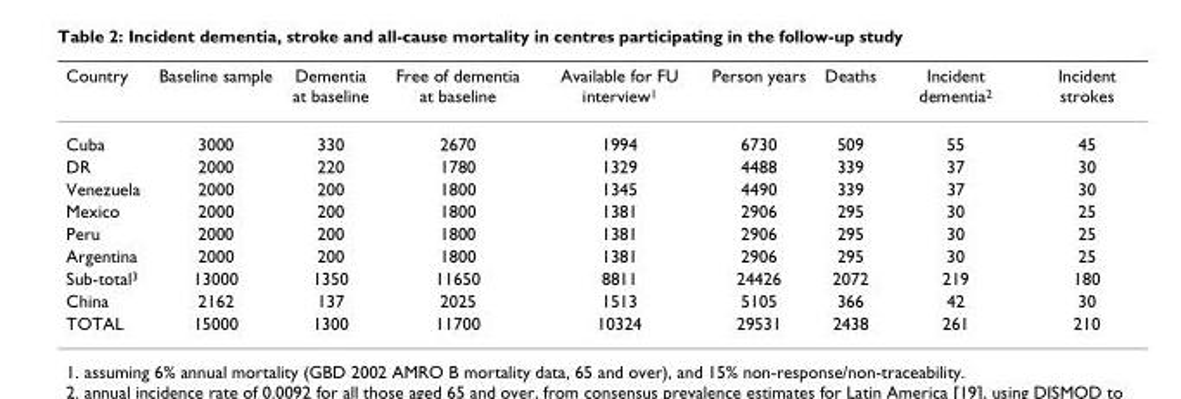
<table><thead><tr><td>Country</td><td>Baseline sample</td><td>Dementia at baseline</td><td>Free of dementia at baseline</td><td>Available for FU interview<sup>1</sup></td><td>Person years</td><td>Deaths</td><td>Incident dementia<sup>2</sup></td><td>Incident strokes</td></tr></thead><tbody><tr><td>Cuba</td><td>3000</td><td>330</td><td>2670</td><td>1994</td><td>6730</td><td>509</td><td>55</td><td>45</td></tr><tr><td>DR</td><td>2000</td><td>220</td><td>1780</td><td>1329</td><td>4488</td><td>339</td><td>37</td><td>30</td></tr><tr><td>Venezuela</td><td>2000</td><td>200</td><td>1800</td><td>1345</td><td>4490</td><td>339</td><td>37</td><td>30</td></tr><tr><td>Mexico</td><td>2000</td><td>200</td><td>1800</td><td>1381</td><td>2906</td><td>295</td><td>30</td><td>25</td></tr><tr><td>Peru</td><td>2000</td><td>200</td><td>1800</td><td>1381</td><td>2906</td><td>295</td><td>30</td><td>25</td></tr><tr><td>Argentina</td><td>2000</td><td>200</td><td>1800</td><td>1381</td><td>2906</td><td>295</td><td>30</td><td>25</td></tr><tr><td>Sub-total<sup>3</sup></td><td>13000</td><td>1350</td><td>11650</td><td>8811</td><td>24426</td><td>2072</td><td>219</td><td>180</td></tr><tr><td>China</td><td>2162</td><td>137</td><td>2025</td><td>1513</td><td>5105</td><td>366</td><td>42</td><td>30</td></tr><tr><td>TOTAL</td><td>15000</td><td>1300</td><td>11700</td><td>10324</td><td>29531</td><td>2438</td><td>261</td><td>210</td></tr></tbody></table>